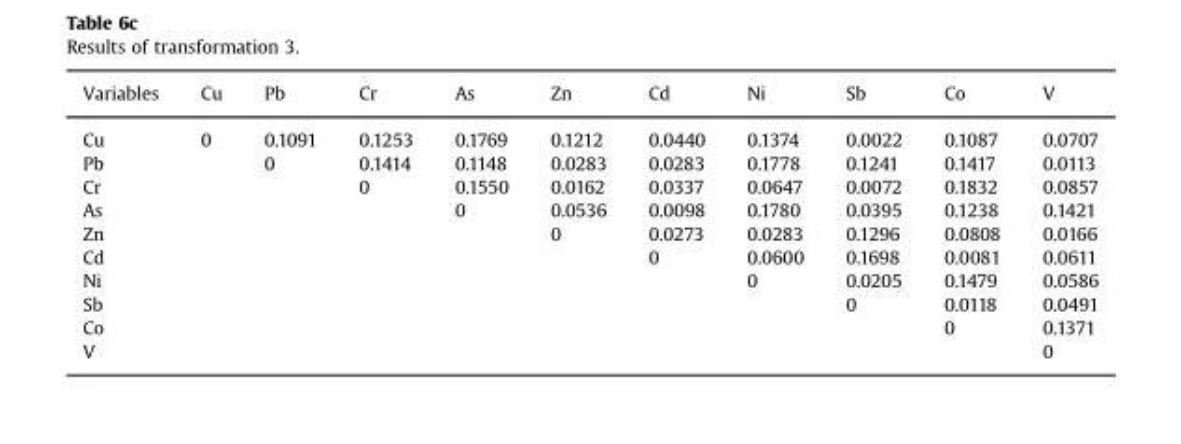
<table><thead><tr><td>Variables</td><td>Cu</td><td>Pb</td><td>Cr</td><td>As</td><td>Zn</td><td>Cd</td><td>Ni</td><td>Sb</td><td>Co</td><td>V</td></tr></thead><tbody><tr><td>Cu</td><td>0</td><td>0.1091</td><td>0.1253</td><td>0.1769</td><td>0.1212</td><td>0.0440</td><td>0.1374</td><td>0.0022</td><td>0.1087</td><td>0.0707</td></tr><tr><td>Pb</td><td></td><td>0</td><td>0.1414</td><td>0.1148</td><td>0.0283</td><td>0.0283</td><td>0.1778</td><td>0.1241</td><td>0.1417</td><td>0.0113</td></tr><tr><td>Cr</td><td></td><td></td><td>0</td><td>0.1550</td><td>0.0162</td><td>0.0337</td><td>0.0647</td><td>0.0072</td><td>0.1832</td><td>0.0857</td></tr><tr><td>As</td><td></td><td></td><td></td><td>0</td><td>0.0536</td><td>0.0098</td><td>0.1780</td><td>0.0395</td><td>0.1238</td><td>0.1421</td></tr><tr><td>Zn</td><td></td><td></td><td></td><td></td><td>0</td><td>0.0273</td><td>0.0283</td><td>0.1296</td><td>0.0808</td><td>0.0166</td></tr><tr><td>Cd</td><td></td><td></td><td></td><td></td><td></td><td>0</td><td>0.0600</td><td>0.1698</td><td>0.0081</td><td>0.0611</td></tr><tr><td>Ni</td><td></td><td></td><td></td><td></td><td></td><td></td><td>0</td><td>0.0205</td><td>0.1479</td><td>0.0586</td></tr><tr><td>Sb</td><td></td><td></td><td></td><td></td><td></td><td></td><td></td><td>0</td><td>0.0118</td><td>0.0491</td></tr><tr><td>Co</td><td></td><td></td><td></td><td></td><td></td><td></td><td></td><td></td><td>0</td><td>0.1371</td></tr><tr><td>V</td><td></td><td></td><td></td><td></td><td></td><td></td><td></td><td></td><td></td><td>0</td></tr></tbody></table>